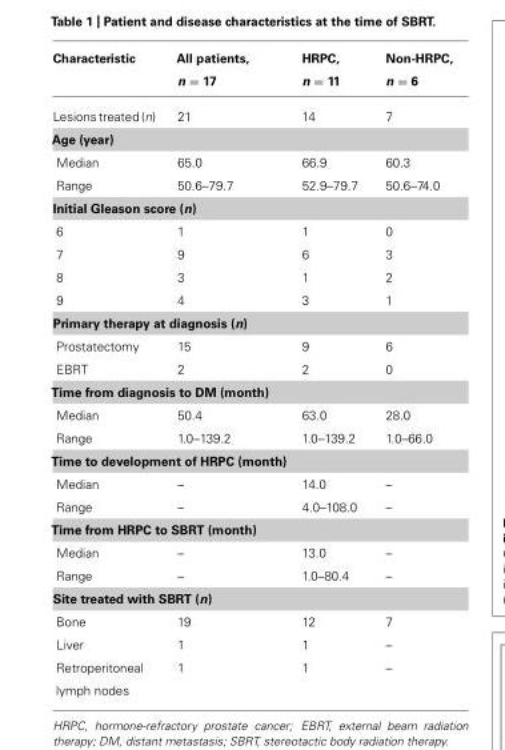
<table><thead><tr><td>Characteristic</td><td>All patients, n = 17</td><td>HRPC, n = 11</td><td>Non-HRPC, n = 6</td></tr></thead><tbody><tr><td>Lesions treated (n)</td><td>21</td><td>14</td><td>7</td></tr><tr><td colspan="4">Age (year)</td></tr><tr><td>Median</td><td>65.0</td><td>66.9</td><td>60.3</td></tr><tr><td>Range</td><td>50.6–79.7</td><td>52.9–79.7</td><td>50.6–74.0</td></tr><tr><td colspan="4">Initial Gleason score (n)</td></tr><tr><td>6</td><td>1</td><td>1</td><td>0</td></tr><tr><td>7</td><td>9</td><td>6</td><td>3</td></tr><tr><td>8</td><td>3</td><td>1</td><td>2</td></tr><tr><td>9</td><td>4</td><td>3</td><td>1</td></tr><tr><td colspan="4">Primary therapy at diagnosis (n)</td></tr><tr><td>Prostatectomy</td><td>15</td><td>9</td><td>6</td></tr><tr><td>EBRT</td><td>2</td><td>2</td><td>0</td></tr><tr><td colspan="4">Time from diagnosis to DM (month)</td></tr><tr><td>Median</td><td>50.4</td><td>63.0</td><td>28.0</td></tr><tr><td>Range</td><td>1.0–139.2</td><td>1.0–139.2</td><td>1.0–66.0</td></tr><tr><td colspan="4">Time to development of HRPC (month)</td></tr><tr><td>Median</td><td>–</td><td>14.0</td><td>–</td></tr><tr><td>Range</td><td>–</td><td>4.0–108.0</td><td>–</td></tr><tr><td colspan="4">Time from HRPC to SBRT (month)</td></tr><tr><td>Median</td><td>–</td><td>13.0</td><td>–</td></tr><tr><td>Range</td><td>–</td><td>1.0–80.4</td><td>–</td></tr><tr><td colspan="4">Site treated with SBRT (n)</td></tr><tr><td>Bone</td><td>19</td><td>12</td><td>7</td></tr><tr><td>Liver</td><td>1</td><td>1</td><td>–</td></tr><tr><td>Retroperitoneal</td><td>1</td><td>1</td><td>–</td></tr><tr><td>lymph nodes</td><td></td><td></td><td></td></tr></tbody></table>